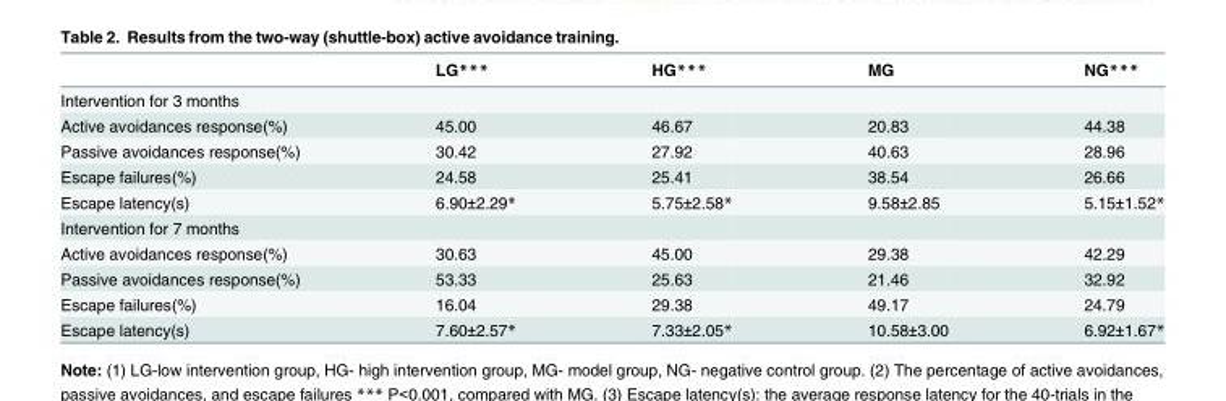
<table><thead><tr><td></td><td>LG***</td><td>HG***</td><td>MG</td><td>NG***</td></tr></thead><tbody><tr><td colspan="5">Intervention for 3 months</td></tr><tr><td>Active avoidances response(%)</td><td>45.00</td><td>46.67</td><td>20.83</td><td>44.38</td></tr><tr><td>Passive avoidances response(%)</td><td>30.42</td><td>27.92</td><td>40.63</td><td>28.96</td></tr><tr><td>Escape failures(%)</td><td>24.58</td><td>25.41</td><td>38.54</td><td>26.66</td></tr><tr><td>Escape latency(s)</td><td>6.90±2.29*</td><td>5.75±2.58*</td><td>9.58±2.85</td><td>5.15±1.52*</td></tr><tr><td colspan="5">Intervention for 7 months</td></tr><tr><td>Active avoidances response(%)</td><td>30.63</td><td>45.00</td><td>29.38</td><td>42.29</td></tr><tr><td>Passive avoidances response(%)</td><td>53.33</td><td>25.63</td><td>21.46</td><td>32.92</td></tr><tr><td>Escape failures(%)</td><td>16.04</td><td>29.38</td><td>49.17</td><td>24.79</td></tr><tr><td>Escape latency(s)</td><td>7.60±2.57*</td><td>7.33±2.05*</td><td>10.58±3.00</td><td>6.92±1.67*</td></tr></tbody></table>